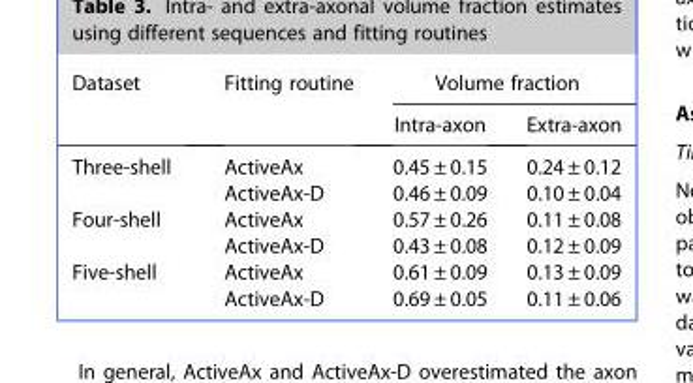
<table><thead><tr><td rowspan="2">Dataset</td><td rowspan="2">Fitting routine</td><td colspan="2">Volume fraction</td></tr><tr><td>Intra-axon</td><td>Extra-axon</td></tr></thead><tbody><tr><td rowspan="2">Three-shell</td><td>ActiveAx</td><td>0.45 ± 0.15</td><td>0.24 ± 0.12</td></tr><tr><td>ActiveAx-D</td><td>0.46 ± 0.09</td><td>0.10 ± 0.04</td></tr><tr><td rowspan="2">Four-shell</td><td>ActiveAx</td><td>0.57 ± 0.26</td><td>0.11 ± 0.08</td></tr><tr><td>ActiveAx-D</td><td>0.43 ± 0.08</td><td>0.12 ± 0.09</td></tr><tr><td rowspan="2">Five-shell</td><td>ActiveAx</td><td>0.61 ± 0.09</td><td>0.13 ± 0.09</td></tr><tr><td>ActiveAx-D</td><td>0.69 ± 0.05</td><td>0.11 ± 0.06</td></tr></tbody></table>